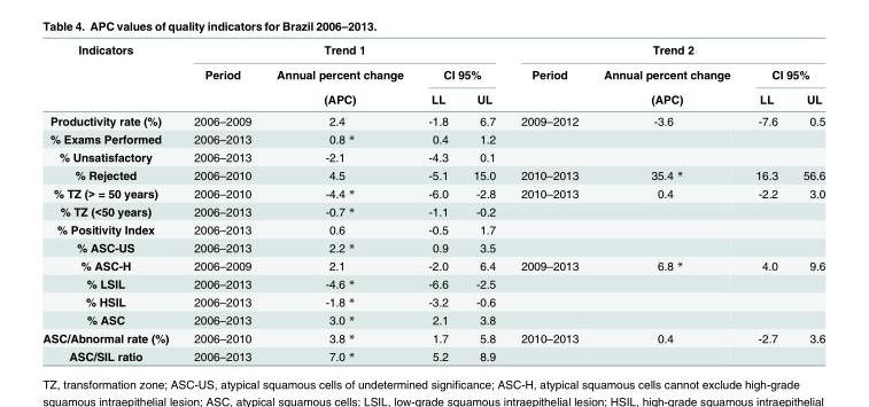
<table><thead><tr><td rowspan="3">Indicators</td><td colspan="4">Trend 1</td><td colspan="4">Trend 2</td></tr><tr><td rowspan="2">Period</td><td rowspan="2">Annual percent change (APC)</td><td colspan="2">CI 95%</td><td rowspan="2">Period</td><td rowspan="2">Annual percent change (APC)</td><td colspan="2">CI 95%</td></tr><tr><td>LL</td><td>UL</td><td>LL</td><td>UL</td></tr></thead><tbody><tr><td>Productivity rate (%)</td><td>2006–2009</td><td>2.4</td><td>-1.8</td><td>6.7</td><td>2009–2012</td><td>-3.6</td><td>-7.6</td><td>0.5</td></tr><tr><td>% Exams Performed</td><td>2006–2013</td><td>0.8 *</td><td>0.4</td><td>1.2</td><td></td><td></td><td></td><td></td></tr><tr><td>% Unsatisfactory</td><td>2006–2013</td><td>-2.1</td><td>-4.3</td><td>0.1</td><td></td><td></td><td></td><td></td></tr><tr><td>% Rejected</td><td>2006–2010</td><td>4.5</td><td>-5.1</td><td>15.0</td><td>2010–2013</td><td>35.4 *</td><td>16.3</td><td>56.6</td></tr><tr><td>% TZ (&gt; = 50 years)</td><td>2006–2010</td><td>-4.4 *</td><td>-6.0</td><td>-2.8</td><td>2010–2013</td><td>0.4</td><td>-2.2</td><td>3.0</td></tr><tr><td>% TZ (&lt;50 years)</td><td>2006–2013</td><td>-0.7 *</td><td>-1.1</td><td>-0.2</td><td></td><td></td><td></td><td></td></tr><tr><td>% Positivity Index</td><td>2006–2013</td><td>0.6</td><td>-0.5</td><td>1.7</td><td></td><td></td><td></td><td></td></tr><tr><td>% ASC-US</td><td>2006–2013</td><td>2.2 *</td><td>0.9</td><td>3.5</td><td></td><td></td><td></td><td></td></tr><tr><td>% ASC-H</td><td>2006–2009</td><td>2.1</td><td>-2.0</td><td>6.4</td><td>2009–2013</td><td>6.8 *</td><td>4.0</td><td>9.6</td></tr><tr><td>% LSIL</td><td>2006–2013</td><td>-4.6 *</td><td>-6.6</td><td>-2.5</td><td></td><td></td><td></td><td></td></tr><tr><td>% HSIL</td><td>2006–2013</td><td>-1.8 *</td><td>-3.2</td><td>-0.6</td><td></td><td></td><td></td><td></td></tr><tr><td>% ASC</td><td>2006–2013</td><td>3.0 *</td><td>2.1</td><td>3.8</td><td></td><td></td><td></td><td></td></tr><tr><td>ASC/Abnormal rate (%)</td><td>2006–2010</td><td>3.8 *</td><td>1.7</td><td>5.8</td><td>2010–2013</td><td>0.4</td><td>-2.7</td><td>3.6</td></tr><tr><td>ASC/SIL ratio</td><td>2006–2013</td><td>7.0 *</td><td>5.2</td><td>8.9</td><td></td><td></td><td></td><td></td></tr></tbody></table>